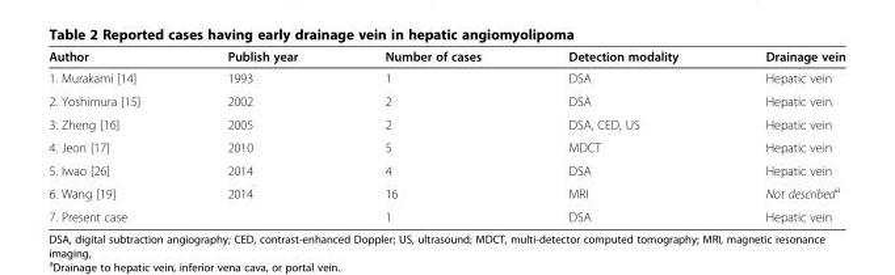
<table><thead><tr><td>Author</td><td>Publish year</td><td>Number of cases</td><td>Detection modality</td><td>Drainage vein</td></tr></thead><tbody><tr><td>1. Murakami [14]</td><td>1993</td><td>1</td><td>DSA</td><td>Hepatic vein</td></tr><tr><td>2. Yoshimura [15]</td><td>2002</td><td>2</td><td>DSA</td><td>Hepatic vein</td></tr><tr><td>3. Zheng [16]</td><td>2005</td><td>2</td><td>DSA, CED, US</td><td>Hepatic vein</td></tr><tr><td>4. Jeon [17]</td><td>2010</td><td>5</td><td>MDCT</td><td>Hepatic vein</td></tr><tr><td>5. Iwao [26]</td><td>2014</td><td>4</td><td>DSA</td><td>Hepatic vein</td></tr><tr><td>6. Wang [19]</td><td>2014</td><td>16</td><td>MRI</td><td>Not described<sup>a</sup></td></tr><tr><td>7. Present case</td><td></td><td>1</td><td>DSA</td><td>Hepatic vein</td></tr></tbody></table>